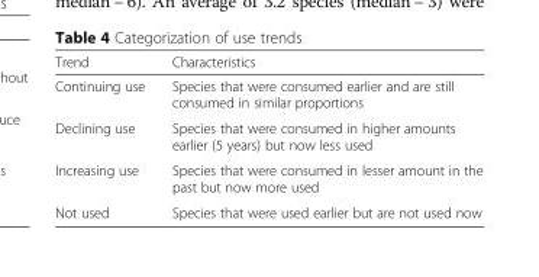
<table><thead><tr><td>Trend</td><td>Characteristics</td></tr></thead><tbody><tr><td>Continuing use</td><td>Species that were consumed earlier and are still consumed in similar proportions</td></tr><tr><td>Declining use</td><td>Species that were consumed in higher amounts earlier (5 years) but now less used</td></tr><tr><td>Increasing use</td><td>Species that were consumed in lesser amount in the past but now more used</td></tr><tr><td>Not used</td><td>Species that were used earlier but are not used now</td></tr></tbody></table>